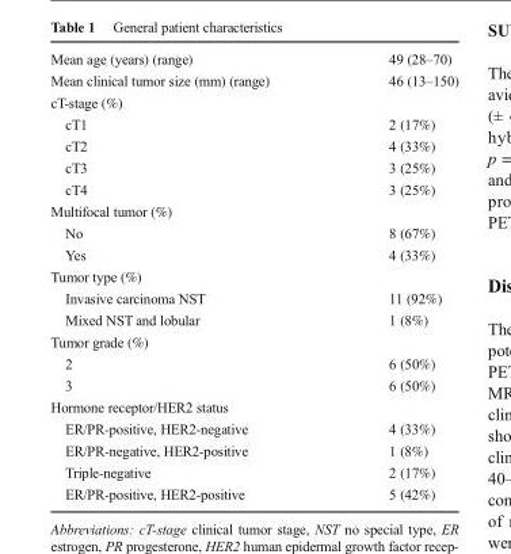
<table><tbody><tr><td>Mean age (years) (range)</td><td>49 (28–70)</td></tr><tr><td>Mean clinical tumor size (mm) (range)</td><td>46 (13–150)</td></tr><tr><td colspan="2">cT-stage (%)</td></tr><tr><td>cT1</td><td>2 (17%)</td></tr><tr><td>cT2</td><td>4 (33%)</td></tr><tr><td>cT3</td><td>3 (25%)</td></tr><tr><td>cT4</td><td>3 (25%)</td></tr><tr><td colspan="2">Multifocal tumor (%)</td></tr><tr><td>No</td><td>8 (67%)</td></tr><tr><td>Yes</td><td>4 (33%)</td></tr><tr><td colspan="2">Tumor type (%)</td></tr><tr><td>Invasive carcinoma NST</td><td>11 (92%)</td></tr><tr><td>Mixed NST and lobular</td><td>1 (8%)</td></tr><tr><td colspan="2">Tumor grade (%)</td></tr><tr><td>2</td><td>6 (50%)</td></tr><tr><td>3</td><td>6 (50%)</td></tr><tr><td colspan="2">Hormone receptor/HER2 status</td></tr><tr><td>ER/PR-positive, HER2-negative</td><td>4 (33%)</td></tr><tr><td>ER/PR-negative, HER2-positive</td><td>1 (8%)</td></tr><tr><td>Triple-negative</td><td>2 (17%)</td></tr><tr><td>ER/PR-positive, HER2-positive</td><td>5 (42%)</td></tr></tbody></table>